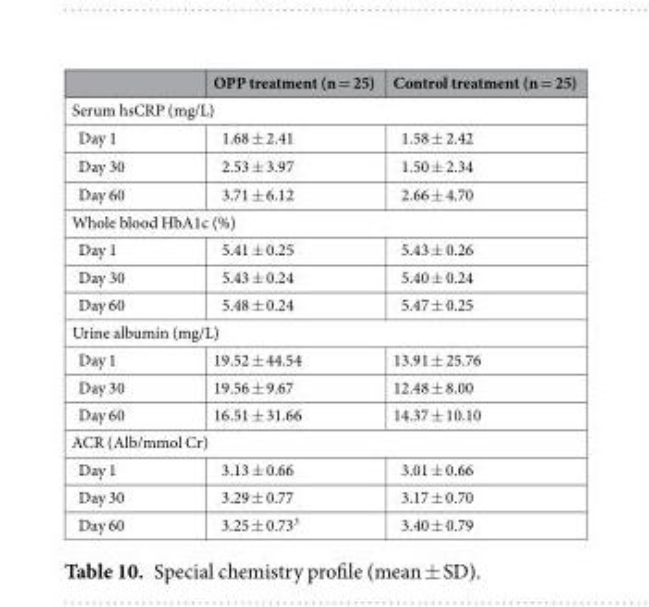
<table><thead><tr><td></td><td>OPP treatment (n = 25)</td><td>Control treatment (n = 25)</td></tr></thead><tbody><tr><td colspan="3">Serum hsCRP (mg/L)</td></tr><tr><td>Day 1</td><td>1.68 ± 2.41</td><td>1.58 ± 2.42</td></tr><tr><td>Day 30</td><td>2.53 ± 3.97</td><td>1.50 ± 2.34</td></tr><tr><td>Day 60</td><td>3.71 ± 6.12</td><td>2.66 ± 4.70</td></tr><tr><td colspan="3">Whole blood HbA1c (%)</td></tr><tr><td>Day 1</td><td>5.41 ± 0.25</td><td>5.43 ± 0.26</td></tr><tr><td>Day 30</td><td>5.43 ± 0.24</td><td>5.40 ± 0.24</td></tr><tr><td>Day 60</td><td>5.48 ± 0.24</td><td>5.47 ± 0.25</td></tr><tr><td colspan="3">Urine albumin (mg/L)</td></tr><tr><td>Day 1</td><td>19.52 ± 44.54</td><td>13.91 ± 25.76</td></tr><tr><td>Day 30</td><td>19.56 ± 9.67</td><td>12.48 ± 8.00</td></tr><tr><td>Day 60</td><td>16.51 ± 31.66</td><td>14.37 ± 10.10</td></tr><tr><td colspan="3">ACR (Alb/mmol Cr)</td></tr><tr><td>Day 1</td><td>3.13 ± 0.66</td><td>3.01 ± 0.66</td></tr><tr><td>Day 30</td><td>3.29 ± 0.77</td><td>3.17 ± 0.70</td></tr><tr><td>Day 60</td><td>3.25 ± 0.73<sup>3</sup></td><td>3.40 ± 0.79</td></tr></tbody></table>